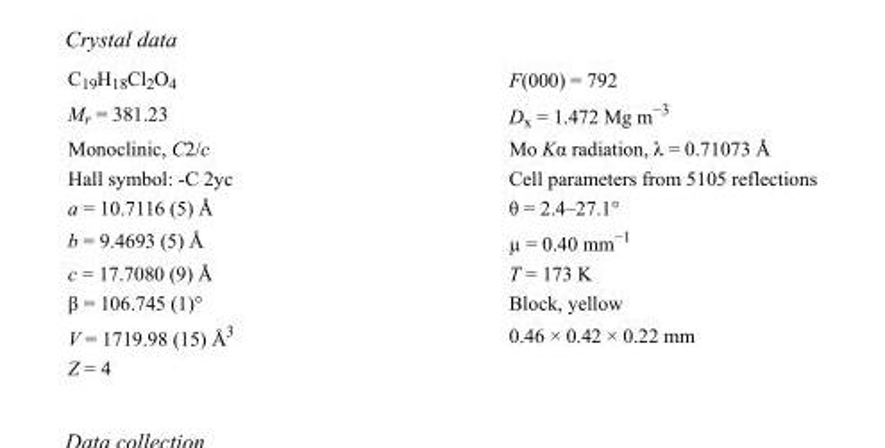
<table><tbody><tr><td>C<sub>19</sub>H<sub>18</sub>Cl<sub>2</sub>O<sub>4</sub></td><td>F(000) = 792</td></tr><tr><td>M<sub>r</sub> = 381.23</td><td>D<sub>x</sub> = 1.472 Mg m<sup>−3</sup></td></tr><tr><td>Monoclinic, C2/c</td><td>Mo Kα radiation, λ = 0.71073 Å</td></tr><tr><td>Hall symbol: -C 2yc</td><td>Cell parameters from 5105 reflections</td></tr><tr><td>a = 10.7116 (5) Å</td><td>θ = 2.4–27.1°</td></tr><tr><td>b = 9.4693 (5) Å</td><td>µ = 0.40 mm<sup>−1</sup></td></tr><tr><td>c = 17.7080 (9) Å</td><td>T = 173 K</td></tr><tr><td>β = 106.745 (1)°</td><td>Block, yellow</td></tr><tr><td>V = 1719.98 (15) Å<sup>3</sup></td><td>0.46 × 0.42 × 0.22 mm</td></tr><tr><td>Z = 4</td><td></td></tr></tbody></table>